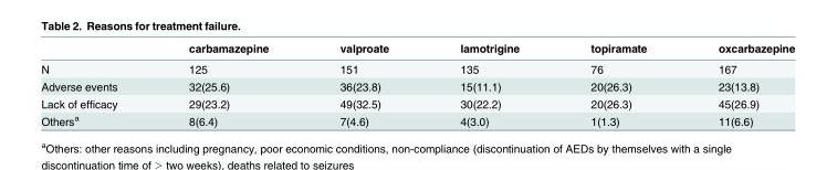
<table><thead><tr><td></td><td>carbamazepine</td><td>valproate</td><td>lamotrigine</td><td>topiramate</td><td>oxcarbazepine</td></tr></thead><tbody><tr><td>N</td><td>125</td><td>151</td><td>135</td><td>76</td><td>167</td></tr><tr><td>Adverse events</td><td>32(25.6)</td><td>36(23.8)</td><td>15(11.1)</td><td>20(26.3)</td><td>23(13.8)</td></tr><tr><td>Lack of efficacy</td><td>29(23.2)</td><td>49(32.5)</td><td>30(22.2)</td><td>20(26.3)</td><td>45(26.9)</td></tr><tr><td>Others<sup>a</sup></td><td>8(6.4)</td><td>7(4.6)</td><td>4(3.0)</td><td>1(1.3)</td><td>11(6.6)</td></tr></tbody></table>